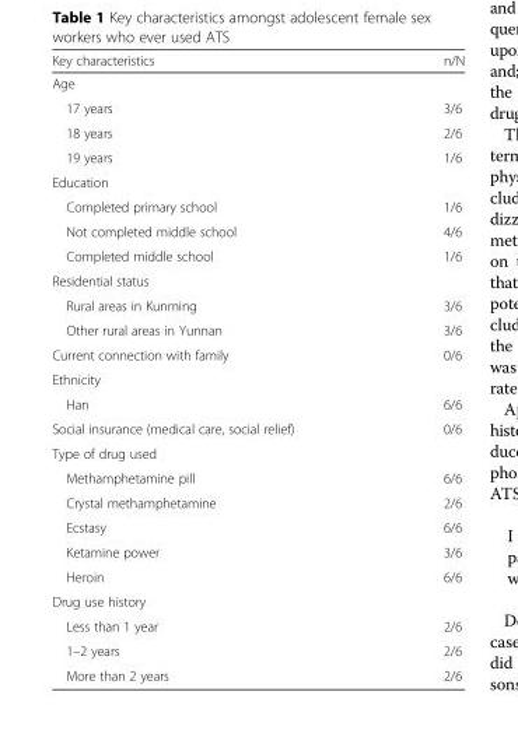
<table><thead><tr><td>Key characteristics</td><td>n/N</td></tr></thead><tbody><tr><td colspan="2">Age</td></tr><tr><td>17 years</td><td>3/6</td></tr><tr><td>18 years</td><td>2/6</td></tr><tr><td>19 years</td><td>1/6</td></tr><tr><td colspan="2">Education</td></tr><tr><td>Completed primary school</td><td>1/6</td></tr><tr><td>Not completed middle school</td><td>4/6</td></tr><tr><td>Completed middle school</td><td>1/6</td></tr><tr><td colspan="2">Residential status</td></tr><tr><td>Rural areas in Kunming</td><td>3/6</td></tr><tr><td>Other rural areas in Yunnan</td><td>3/6</td></tr><tr><td>Current connection with family</td><td>0/6</td></tr><tr><td colspan="2">Ethnicity</td></tr><tr><td>Han</td><td>6/6</td></tr><tr><td>Social insurance (medical care, social relief)</td><td>0/6</td></tr><tr><td colspan="2">Type of drug used</td></tr><tr><td>Methamphetamine pill</td><td>6/6</td></tr><tr><td>Crystal methamphetamine</td><td>2/6</td></tr><tr><td>Ecstasy</td><td>6/6</td></tr><tr><td>Ketamine power</td><td>3/6</td></tr><tr><td>Heroin</td><td>6/6</td></tr><tr><td colspan="2">Drug use history</td></tr><tr><td>Less than 1 year</td><td>2/6</td></tr><tr><td>1–2 years</td><td>2/6</td></tr><tr><td>More than 2 years</td><td>2/6</td></tr></tbody></table>